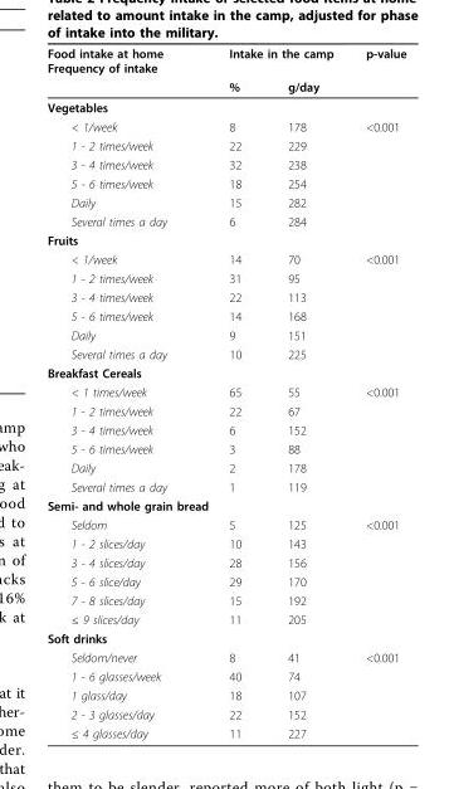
<table><thead><tr><td rowspan="2">Food intake at home Frequency of intake</td><td colspan="2">Intake in the camp</td><td rowspan="2">p-value</td></tr><tr><td>%</td><td>g/day</td></tr></thead><tbody><tr><td colspan="4">Vegetables</td></tr><tr><td>&lt; 1/week</td><td>8</td><td>178</td><td>&lt;0.001</td></tr><tr><td>1 - 2 times/week</td><td>22</td><td>229</td><td></td></tr><tr><td>3 - 4 times/week</td><td>32</td><td>238</td><td></td></tr><tr><td>5 - 6 times/week</td><td>18</td><td>254</td><td></td></tr><tr><td>Daily</td><td>15</td><td>282</td><td></td></tr><tr><td>Several times a day</td><td>6</td><td>284</td><td></td></tr><tr><td colspan="4">Fruits</td></tr><tr><td>&lt; 1/week</td><td>14</td><td>70</td><td>&lt;0.001</td></tr><tr><td>1 - 2 times/week</td><td>31</td><td>95</td><td></td></tr><tr><td>3 - 4 times/week</td><td>22</td><td>113</td><td></td></tr><tr><td>5 - 6 times/week</td><td>14</td><td>168</td><td></td></tr><tr><td>Daily</td><td>9</td><td>151</td><td></td></tr><tr><td>Several times a day</td><td>10</td><td>225</td><td></td></tr><tr><td colspan="4">Breakfast Cereals</td></tr><tr><td>&lt; 1 times/week</td><td>65</td><td>55</td><td>&lt;0.001</td></tr><tr><td>1 - 2 times/week</td><td>22</td><td>67</td><td></td></tr><tr><td>3 - 4 times/week</td><td>6</td><td>152</td><td></td></tr><tr><td>5 - 6 times/week</td><td>3</td><td>88</td><td></td></tr><tr><td>Daily</td><td>2</td><td>178</td><td></td></tr><tr><td>Several times a day</td><td>1</td><td>119</td><td></td></tr><tr><td colspan="4">Semi- and whole grain bread</td></tr><tr><td>Seldom</td><td>5</td><td>125</td><td>&lt;0.001</td></tr><tr><td>1 - 2 slices/day</td><td>10</td><td>143</td><td></td></tr><tr><td>3 - 4 slices/day</td><td>28</td><td>156</td><td></td></tr><tr><td>5 - 6 slice/day</td><td>29</td><td>170</td><td></td></tr><tr><td>7 - 8 slices/day</td><td>15</td><td>192</td><td></td></tr><tr><td>≤ 9 slices/day</td><td>11</td><td>205</td><td></td></tr><tr><td colspan="4">Soft drinks</td></tr><tr><td>Seldom/never</td><td>8</td><td>41</td><td>&lt;0.001</td></tr><tr><td>1 - 6 glasses/week</td><td>40</td><td>74</td><td></td></tr><tr><td>1 glass/day</td><td>18</td><td>107</td><td></td></tr><tr><td>2 - 3 glasses/day</td><td>22</td><td>152</td><td></td></tr><tr><td>≤ 4 glasses/day</td><td>11</td><td>227</td><td></td></tr></tbody></table>